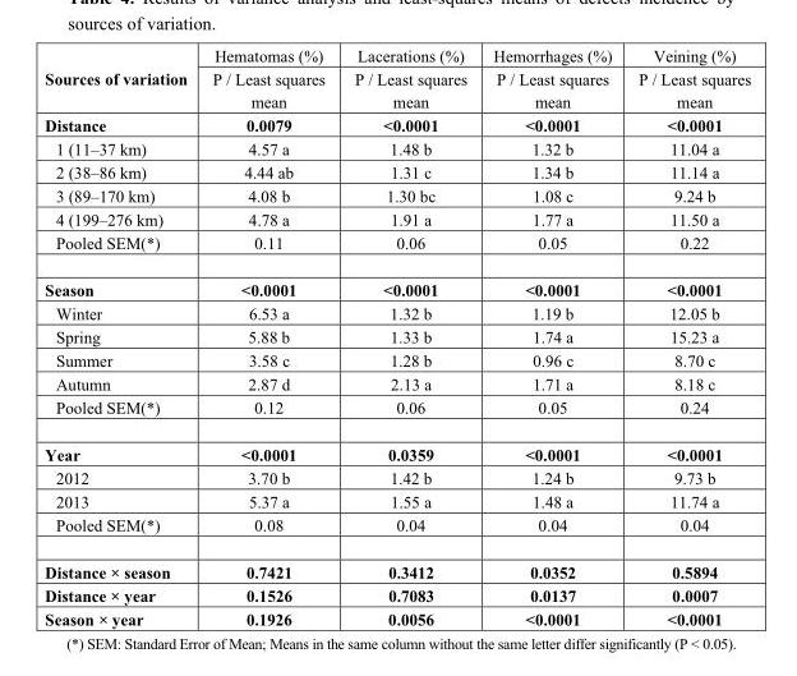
<table><tbody><tr><td rowspan="2">Sources of variation</td><td>Hematomas (%)</td><td>Lacerations (%)</td><td>Hemorrhages (%)</td><td>Veining (%)</td></tr><tr><td>P / Least squares mean</td><td>P / Least squares mean</td><td>P / Least squares mean</td><td>P / Least squares mean</td></tr><tr><td>Distance</td><td>0.0079</td><td>&lt;0.0001</td><td>&lt;0.0001</td><td>&lt;0.0001</td></tr><tr><td>1 (11–37 km)</td><td>4.57 a</td><td>1.48 b</td><td>1.32 b</td><td>11.04 a</td></tr><tr><td>2 (38–86 km)</td><td>4.44 ab</td><td>1.31 c</td><td>1.34 b</td><td>11.14 a</td></tr><tr><td>3 (89–170 km)</td><td>4.08 b</td><td>1.30 bc</td><td>1.08 c</td><td>9.24 b</td></tr><tr><td>4 (199–276 km)</td><td>4.78 a</td><td>1.91 a</td><td>1.77 a</td><td>11.50 a</td></tr><tr><td>Pooled SEM(*)</td><td>0.11</td><td>0.06</td><td>0.05</td><td>0.22</td></tr><tr><td>Season</td><td>&lt;0.0001</td><td>&lt;0.0001</td><td>&lt;0.0001</td><td>&lt;0.0001</td></tr><tr><td>Winter</td><td>6.53 a</td><td>1.32 b</td><td>1.19 b</td><td>12.05 b</td></tr><tr><td>Spring</td><td>5.88 b</td><td>1.33 b</td><td>1.74 a</td><td>15.23 a</td></tr><tr><td>Summer</td><td>3.58 c</td><td>1.28 b</td><td>0.96 c</td><td>8.70 c</td></tr><tr><td>Autumn</td><td>2.87 d</td><td>2.13 a</td><td>1.71 a</td><td>8.18 c</td></tr><tr><td>Pooled SEM(*)</td><td>0.12</td><td>0.06</td><td>0.05</td><td>0.24</td></tr><tr><td>Year</td><td>&lt;0.0001</td><td>0.0359</td><td>&lt;0.0001</td><td>&lt;0.0001</td></tr><tr><td>2012</td><td>3.70 b</td><td>1.42 b</td><td>1.24 b</td><td>9.73 b</td></tr><tr><td>2013</td><td>5.37 a</td><td>1.55 a</td><td>1.48 a</td><td>11.74 a</td></tr><tr><td>Pooled SEM(*)</td><td>0.08</td><td>0.04</td><td>0.04</td><td>0.04</td></tr><tr><td>Distance × season</td><td>0.7421</td><td>0.3412</td><td>0.0352</td><td>0.5894</td></tr><tr><td>Distance × year</td><td>0.1526</td><td>0.7083</td><td>0.0137</td><td>0.0007</td></tr><tr><td>Season × year</td><td>0.1926</td><td>0.0056</td><td>&lt;0.0001</td><td>&lt;0.0001</td></tr></tbody></table>